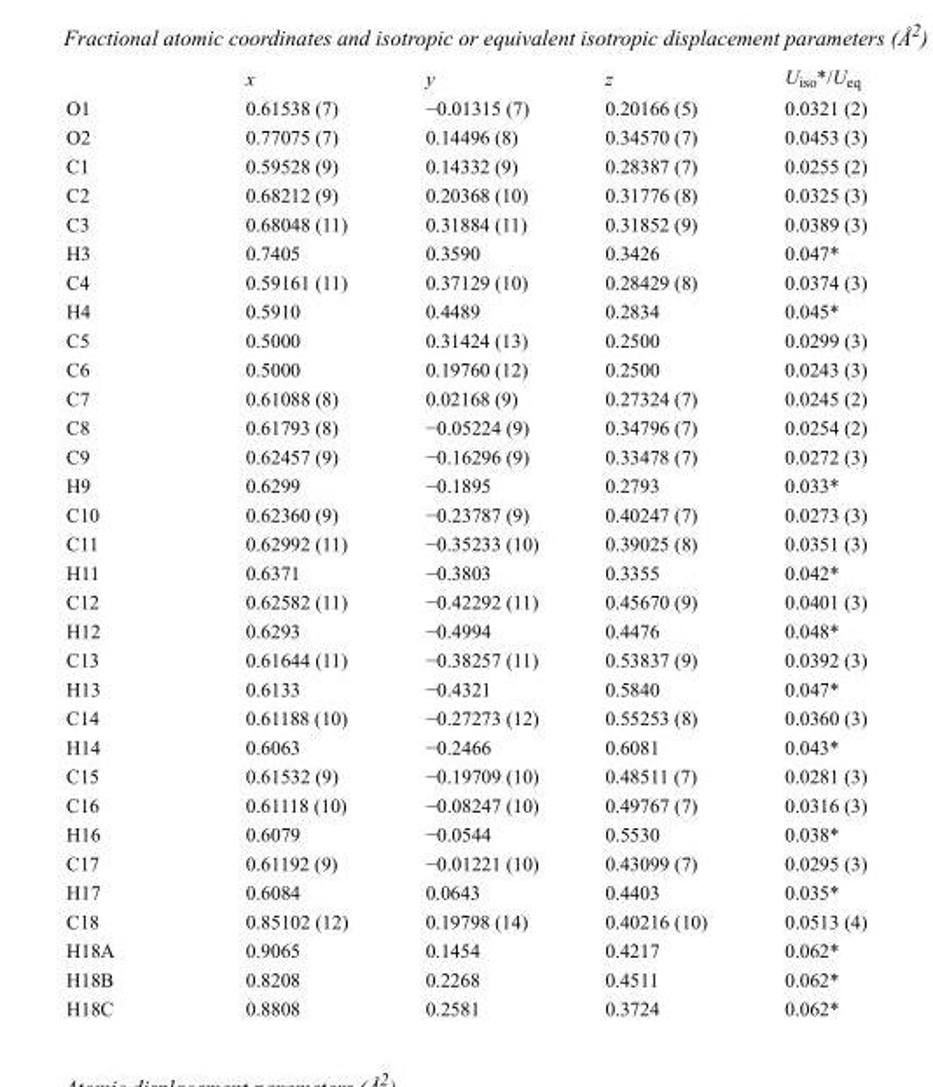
<table><thead><tr><td></td><td>x</td><td>y</td><td>z</td><td>U<sub>iso</sub>*/U<sub>eq</sub></td></tr></thead><tbody><tr><td>O1</td><td>0.61538 (7)</td><td>−0.01315 (7)</td><td>0.20166 (5)</td><td>0.0321 (2)</td></tr><tr><td>O2</td><td>0.77075 (7)</td><td>0.14496 (8)</td><td>0.34570 (7)</td><td>0.0453 (3)</td></tr><tr><td>C1</td><td>0.59528 (9)</td><td>0.14332 (9)</td><td>0.28387 (7)</td><td>0.0255 (2)</td></tr><tr><td>C2</td><td>0.68212 (9)</td><td>0.20368 (10)</td><td>0.31776 (8)</td><td>0.0325 (3)</td></tr><tr><td>C3</td><td>0.68048 (11)</td><td>0.31884 (11)</td><td>0.31852 (9)</td><td>0.0389 (3)</td></tr><tr><td>H3</td><td>0.7405</td><td>0.3590</td><td>0.3426</td><td>0.047*</td></tr><tr><td>C4</td><td>0.59161 (11)</td><td>0.37129 (10)</td><td>0.28429 (8)</td><td>0.0374 (3)</td></tr><tr><td>H4</td><td>0.5910</td><td>0.4489</td><td>0.2834</td><td>0.045*</td></tr><tr><td>C5</td><td>0.5000</td><td>0.31424 (13)</td><td>0.2500</td><td>0.0299 (3)</td></tr><tr><td>C6</td><td>0.5000</td><td>0.19760 (12)</td><td>0.2500</td><td>0.0243 (3)</td></tr><tr><td>C7</td><td>0.61088 (8)</td><td>0.02168 (9)</td><td>0.27324 (7)</td><td>0.0245 (2)</td></tr><tr><td>C8</td><td>0.61793 (8)</td><td>−0.05224 (9)</td><td>0.34796 (7)</td><td>0.0254 (2)</td></tr><tr><td>C9</td><td>0.62457 (9)</td><td>−0.16296 (9)</td><td>0.33478 (7)</td><td>0.0272 (3)</td></tr><tr><td>H9</td><td>0.6299</td><td>−0.1895</td><td>0.2793</td><td>0.033*</td></tr><tr><td>C10</td><td>0.62360 (9)</td><td>−0.23787 (9)</td><td>0.40247 (7)</td><td>0.0273 (3)</td></tr><tr><td>C11</td><td>0.62992 (11)</td><td>−0.35233 (10)</td><td>0.39025 (8)</td><td>0.0351 (3)</td></tr><tr><td>H11</td><td>0.6371</td><td>−0.3803</td><td>0.3355</td><td>0.042*</td></tr><tr><td>C12</td><td>0.62582 (11)</td><td>−0.42292 (11)</td><td>0.45670 (9)</td><td>0.0401 (3)</td></tr><tr><td>H12</td><td>0.6293</td><td>−0.4994</td><td>0.4476</td><td>0.048*</td></tr><tr><td>C13</td><td>0.61644 (11)</td><td>−0.38257 (11)</td><td>0.53837 (9)</td><td>0.0392 (3)</td></tr><tr><td>H13</td><td>0.6133</td><td>−0.4321</td><td>0.5840</td><td>0.047*</td></tr><tr><td>C14</td><td>0.61188 (10)</td><td>−0.27273 (12)</td><td>0.55253 (8)</td><td>0.0360 (3)</td></tr><tr><td>H14</td><td>0.6063</td><td>−0.2466</td><td>0.6081</td><td>0.043*</td></tr><tr><td>C15</td><td>0.61532 (9)</td><td>−0.19709 (10)</td><td>0.48511 (7)</td><td>0.0281 (3)</td></tr><tr><td>C16</td><td>0.61118 (10)</td><td>−0.08247 (10)</td><td>0.49767 (7)</td><td>0.0316 (3)</td></tr><tr><td>H16</td><td>0.6079</td><td>−0.0544</td><td>0.5530</td><td>0.038*</td></tr><tr><td>C17</td><td>0.61192 (9)</td><td>−0.01221 (10)</td><td>0.43099 (7)</td><td>0.0295 (3)</td></tr><tr><td>H17</td><td>0.6084</td><td>0.0643</td><td>0.4403</td><td>0.035*</td></tr><tr><td>C18</td><td>0.85102 (12)</td><td>0.19798 (14)</td><td>0.40216 (10)</td><td>0.0513 (4)</td></tr><tr><td>H18A</td><td>0.9065</td><td>0.1454</td><td>0.4217</td><td>0.062*</td></tr><tr><td>H18B</td><td>0.8208</td><td>0.2268</td><td>0.4511</td><td>0.062*</td></tr><tr><td>H18C</td><td>0.8808</td><td>0.2581</td><td>0.3724</td><td>0.062*</td></tr></tbody></table>